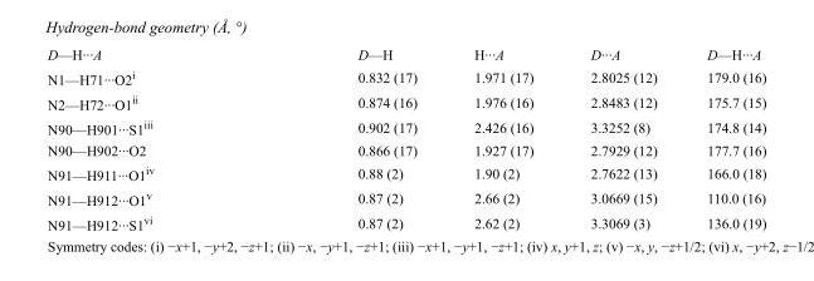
<table><tbody><tr><td>D—H···A</td><td>D—H</td><td>H···A</td><td>D···A</td><td>D—H···A</td></tr><tr><td>N1—H71···O2<sup>i</sup></td><td>0.832 (17)</td><td>1.971 (17)</td><td>2.8025 (12)</td><td>179.0 (16)</td></tr><tr><td>N2—H72···O1<sup>ii</sup></td><td>0.874 (16)</td><td>1.976 (16)</td><td>2.8483 (12)</td><td>175.7 (15)</td></tr><tr><td>N90—H901···S1<sup>iii</sup></td><td>0.902 (17)</td><td>2.426 (16)</td><td>3.3252 (8)</td><td>174.8 (14)</td></tr><tr><td>N90—H902···O2</td><td>0.866 (17)</td><td>1.927 (17)</td><td>2.7929 (12)</td><td>177.7 (16)</td></tr><tr><td>N91—H911···O1<sup>iv</sup></td><td>0.88 (2)</td><td>1.90 (2)</td><td>2.7622 (13)</td><td>166.0 (18)</td></tr><tr><td>N91—H912···O1<sup>v</sup></td><td>0.87 (2)</td><td>2.66 (2)</td><td>3.0669 (15)</td><td>110.0 (16)</td></tr><tr><td>N91—H912···S1<sup>vi</sup></td><td>0.87 (2)</td><td>2.62 (2)</td><td>3.3069 (3)</td><td>136.0 (19)</td></tr></tbody></table>